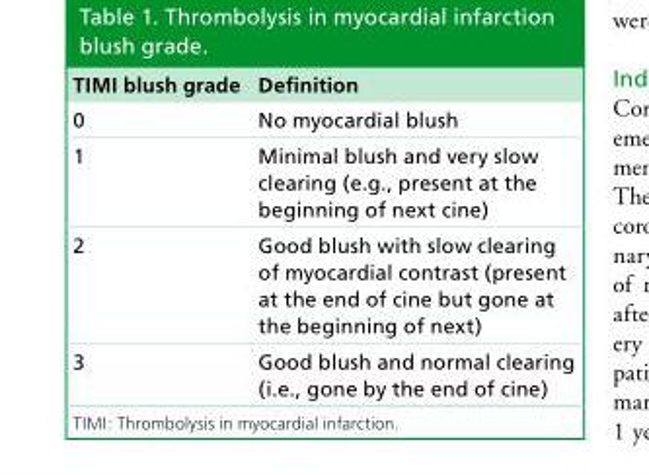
<table><thead><tr><td>TIMI blush grade</td><td>Definition</td></tr></thead><tbody><tr><td>0</td><td>No myocardial blush</td></tr><tr><td>1</td><td>Minimal blush and very slow clearing (e.g., present at the beginning of next cine)</td></tr><tr><td>2</td><td>Good blush with slow clearing of myocardial contrast (present at the end of cine but gone at the beginning of next)</td></tr><tr><td>3</td><td>Good blush and normal clearing (i.e., gone by the end of cine)</td></tr></tbody></table>